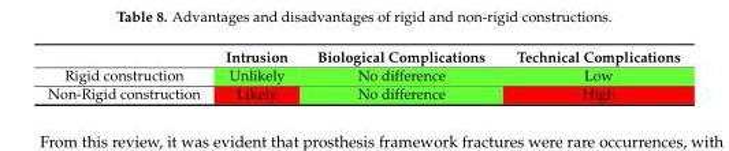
<table><thead><tr><td></td><td>Intrusion</td><td>Biological Complications</td><td>Technical Complications</td></tr></thead><tbody><tr><td>Rigid construction</td><td>Unlikely</td><td>No difference</td><td>Low</td></tr><tr><td>Non-Rigid construction</td><td>Likely</td><td>No difference</td><td>High</td></tr></tbody></table>